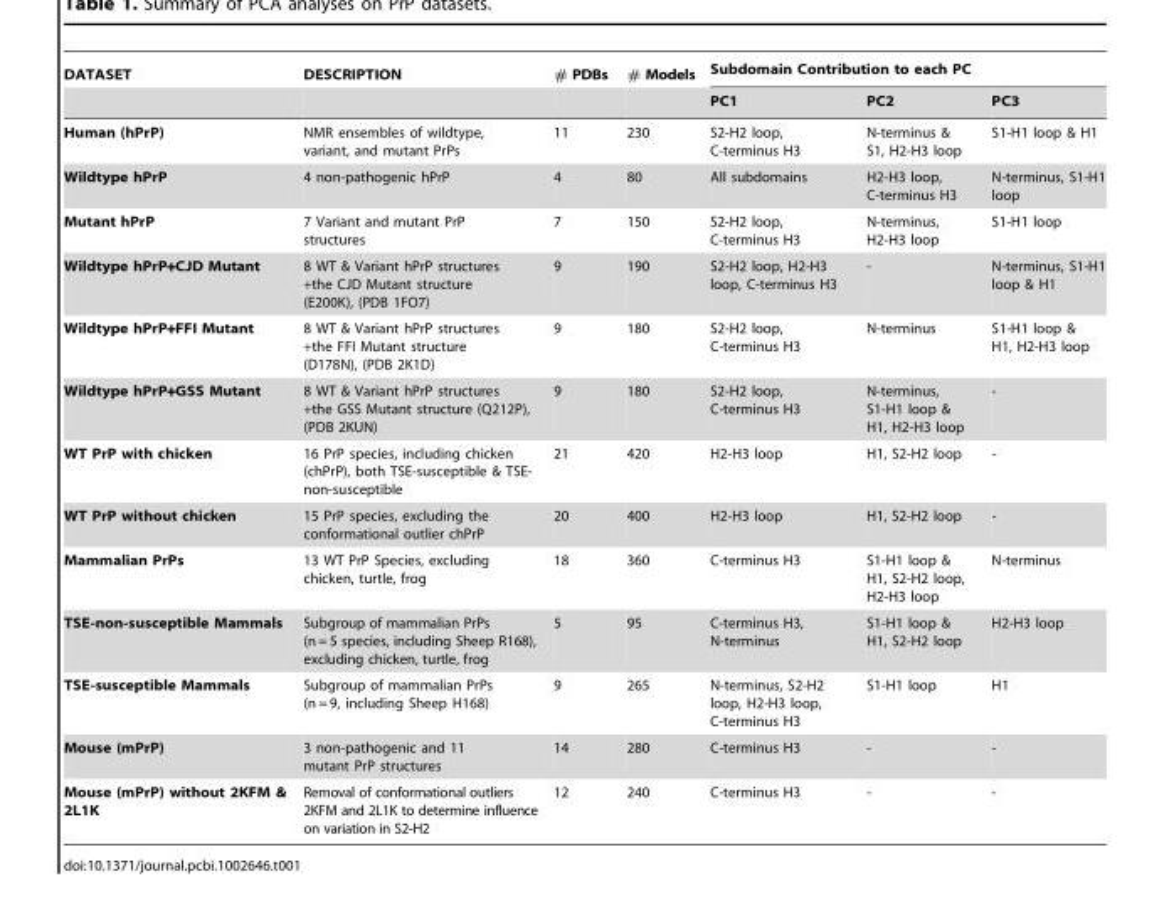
<table><thead><tr><td rowspan="2">DATASET</td><td rowspan="2">DESCRIPTION</td><td rowspan="2"># PDBs</td><td rowspan="2"># Models</td><td colspan="3">Subdomain Contribution to each PC</td></tr><tr><td>PC1</td><td>PC2</td><td>PC3</td></tr></thead><tbody><tr><td>Human (hPrP)</td><td>NMR ensembles of wildtype, variant, and mutant PrPs</td><td>11</td><td>230</td><td>S2-H2 loop, C-terminus H3</td><td>N-terminus &amp; S1, H2-H3 loop</td><td>S1-H1 loop &amp; H1</td></tr><tr><td>Wildtype hPrP</td><td>4 non-pathogenic hPrP</td><td>4</td><td>80</td><td>All subdomains</td><td>H2-H3 loop, C-terminus H3</td><td>N-terminus, S1-H1 loop</td></tr><tr><td>Mutant hPrP</td><td>7 Variant and mutant PrP structures</td><td>7</td><td>150</td><td>S2-H2 loop, C-terminus H3</td><td>N-terminus, H2-H3 loop</td><td>S1-H1 loop</td></tr><tr><td>Wildtype hPrP+CJD Mutant</td><td>8 WT &amp; Variant hPrP structures +the CJD Mutant structure (E200K), (PDB 1FO7)</td><td>9</td><td>190</td><td>S2-H2 loop, H2-H3 loop, C-terminus H3</td><td>-</td><td>N-terminus, S1-H1 loop &amp; H1</td></tr><tr><td>Wildtype hPrP+FFI Mutant</td><td>8 WT &amp; Variant hPrP structures +the FFI Mutant structure (D178N), (PDB 2K1D)</td><td>9</td><td>180</td><td>S2-H2 loop, C-terminus H3</td><td>N-terminus</td><td>S1-H1 loop &amp; H1, H2-H3 loop</td></tr><tr><td>Wildtype hPrP+GSS Mutant</td><td>8 WT &amp; Variant hPrP structures +the GSS Mutant structure (Q212P), (PDB 2KUN)</td><td>9</td><td>180</td><td>S2-H2 loop, C-terminus H3</td><td>N-terminus, S1-H1 loop &amp; H1, H2-H3 loop</td><td>-</td></tr><tr><td>WT PrP with chicken</td><td>16 PrP species, including chicken (chPrP), both TSE-susceptible &amp; TSE- non-susceptible</td><td>21</td><td>420</td><td>H2-H3 loop</td><td>H1, S2-H2 loop</td><td>-</td></tr><tr><td>WT PrP without chicken</td><td>15 PrP species, excluding the conformational outlier chPrP</td><td>20</td><td>400</td><td>H2-H3 loop</td><td>H1, S2-H2 loop</td><td>-</td></tr><tr><td>Mammalian PrPs</td><td>13 WT PrP Species, excluding chicken, turtle, frog</td><td>18</td><td>360</td><td>C-terminus H3</td><td>S1-H1 loop &amp; H1, S2-H2 loop, H2-H3 loop</td><td>N-terminus</td></tr><tr><td>TSE-non-susceptible Mammals</td><td>Subgroup of mammalian PrPs (n = 5 species, including Sheep R168), excluding chicken, turtle, frog</td><td>5</td><td>95</td><td>C-terminus H3, N-terminus</td><td>S1-H1 loop &amp; H1, S2-H2 loop</td><td>H2-H3 loop</td></tr><tr><td>TSE-susceptible Mammals</td><td>Subgroup of mammalian PrPs (n = 9, including Sheep H168)</td><td>9</td><td>265</td><td>N-terminus, S2-H2 loop, H2-H3 loop, C-terminus H3</td><td>S1-H1 loop</td><td>H1</td></tr><tr><td>Mouse (mPrP)</td><td>3 non-pathogenic and 11 mutant PrP structures</td><td>14</td><td>280</td><td>C-terminus H3</td><td>-</td><td>-</td></tr><tr><td>Mouse (mPrP) without 2KFM &amp; 2L1K</td><td>Removal of conformational outliers 2KFM and 2L1K to determine influence on variation in S2-H2</td><td>12</td><td>240</td><td>C-terminus H3</td><td>-</td><td>-</td></tr></tbody></table>